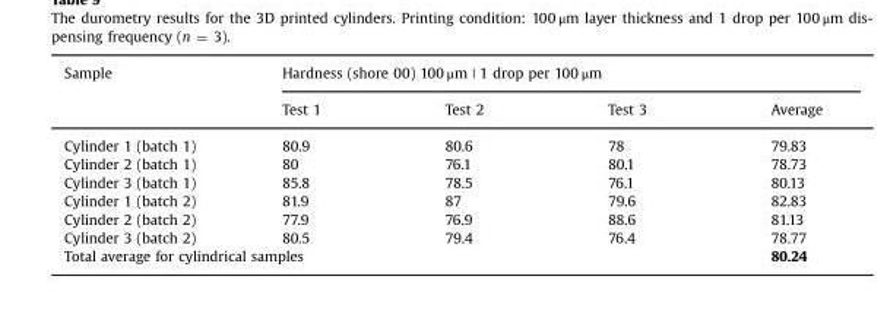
<table><thead><tr><td rowspan="2">Sample</td><td colspan="4">Hardness (shore 00) 100 μm | 1 drop per 100 μm</td></tr><tr><td>Test 1</td><td>Test 2</td><td>Test 3</td><td>Average</td></tr></thead><tbody><tr><td>Cylinder 1 (batch 1)</td><td>80.9</td><td>80.6</td><td>78</td><td>79.83</td></tr><tr><td>Cylinder 2 (batch 1)</td><td>80</td><td>76.1</td><td>80.1</td><td>78.73</td></tr><tr><td>Cylinder 3 (batch 1)</td><td>85.8</td><td>78.5</td><td>76.1</td><td>80.13</td></tr><tr><td>Cylinder 1 (batch 2)</td><td>81.9</td><td>87</td><td>79.6</td><td>82.83</td></tr><tr><td>Cylinder 2 (batch 2)</td><td>77.9</td><td>76.9</td><td>88.6</td><td>81.13</td></tr><tr><td>Cylinder 3 (batch 2)</td><td>80.5</td><td>79.4</td><td>76.4</td><td>78.77</td></tr><tr><td colspan="4">Total average for cylindrical samples</td><td>80.24</td></tr></tbody></table>